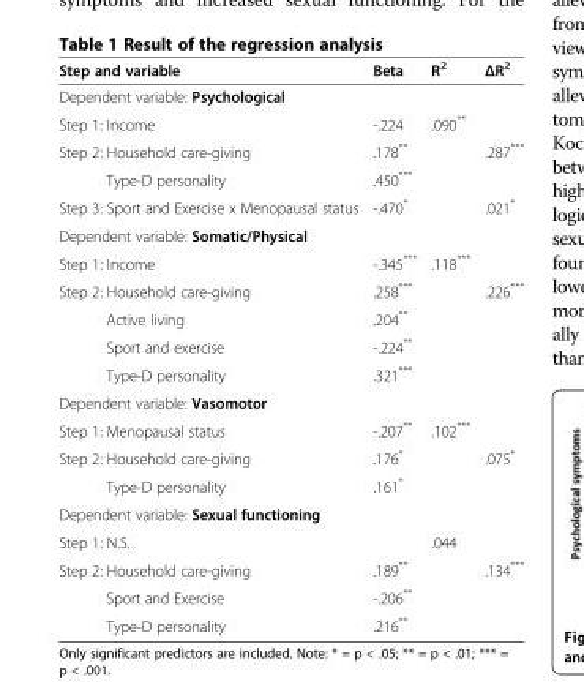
<table><thead><tr><td>Step and variable</td><td>Beta</td><td>R<sup>2</sup></td><td>ΔR<sup>2</sup></td></tr></thead><tbody><tr><td colspan="4">Dependent variable: Psychological</td></tr><tr><td>Step 1: Income</td><td>-.224</td><td>.090**</td><td></td></tr><tr><td>Step 2: Household care-giving</td><td>.178**</td><td></td><td>.287***</td></tr><tr><td>Type-D personality</td><td>.450***</td><td></td><td></td></tr><tr><td>Step 3: Sport and Exercise x Menopausal status</td><td>-.470*</td><td></td><td>.021*</td></tr><tr><td colspan="4">Dependent variable: Somatic/Physical</td></tr><tr><td>Step 1: Income</td><td>-.345***</td><td>.118***</td><td></td></tr><tr><td>Step 2: Household care-giving</td><td>.258***</td><td></td><td>.226***</td></tr><tr><td>Active living</td><td>.204**</td><td></td><td></td></tr><tr><td>Sport and exercise</td><td>-.224**</td><td></td><td></td></tr><tr><td>Type-D personality</td><td>.321***</td><td></td><td></td></tr><tr><td colspan="4">Dependent variable: Vasomotor</td></tr><tr><td>Step 1: Menopausal status</td><td>-.207**</td><td>.102***</td><td></td></tr><tr><td>Step 2: Household care-giving</td><td>.176*</td><td></td><td>.075*</td></tr><tr><td>Type-D personality</td><td>.161*</td><td></td><td></td></tr><tr><td colspan="4">Dependent variable: Sexual functioning</td></tr><tr><td>Step 1: N.S.</td><td></td><td>.044</td><td></td></tr><tr><td>Step 2: Household care-giving</td><td>.189**</td><td></td><td>.134***</td></tr><tr><td>Sport and Exercise</td><td>-.206**</td><td></td><td></td></tr><tr><td>Type-D personality</td><td>.216**</td><td></td><td></td></tr></tbody></table>